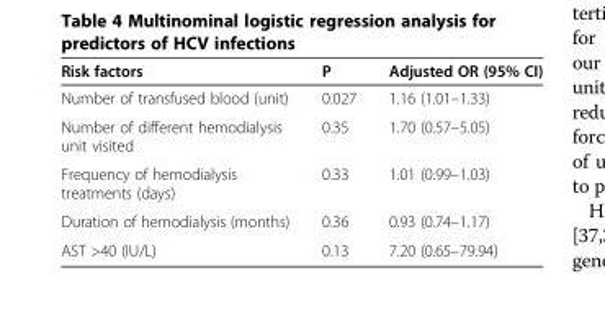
<table><thead><tr><td>Risk factors</td><td>P</td><td>Adjusted OR (95% CI)</td></tr></thead><tbody><tr><td>Number of transfused blood (unit)</td><td>0.027</td><td>1.16 (1.01–1.33)</td></tr><tr><td>Number of different hemodialysis unit visited</td><td>0.35</td><td>1.70 (0.57–5.05)</td></tr><tr><td>Frequency of hemodialysis treatments (days)</td><td>0.33</td><td>1.01 (0.99–1.03)</td></tr><tr><td>Duration of hemodialysis (months)</td><td>0.36</td><td>0.93 (0.74–1.17)</td></tr><tr><td>AST &gt;40 (IU/L)</td><td>0.13</td><td>7.20 (0.65–79.94)</td></tr></tbody></table>